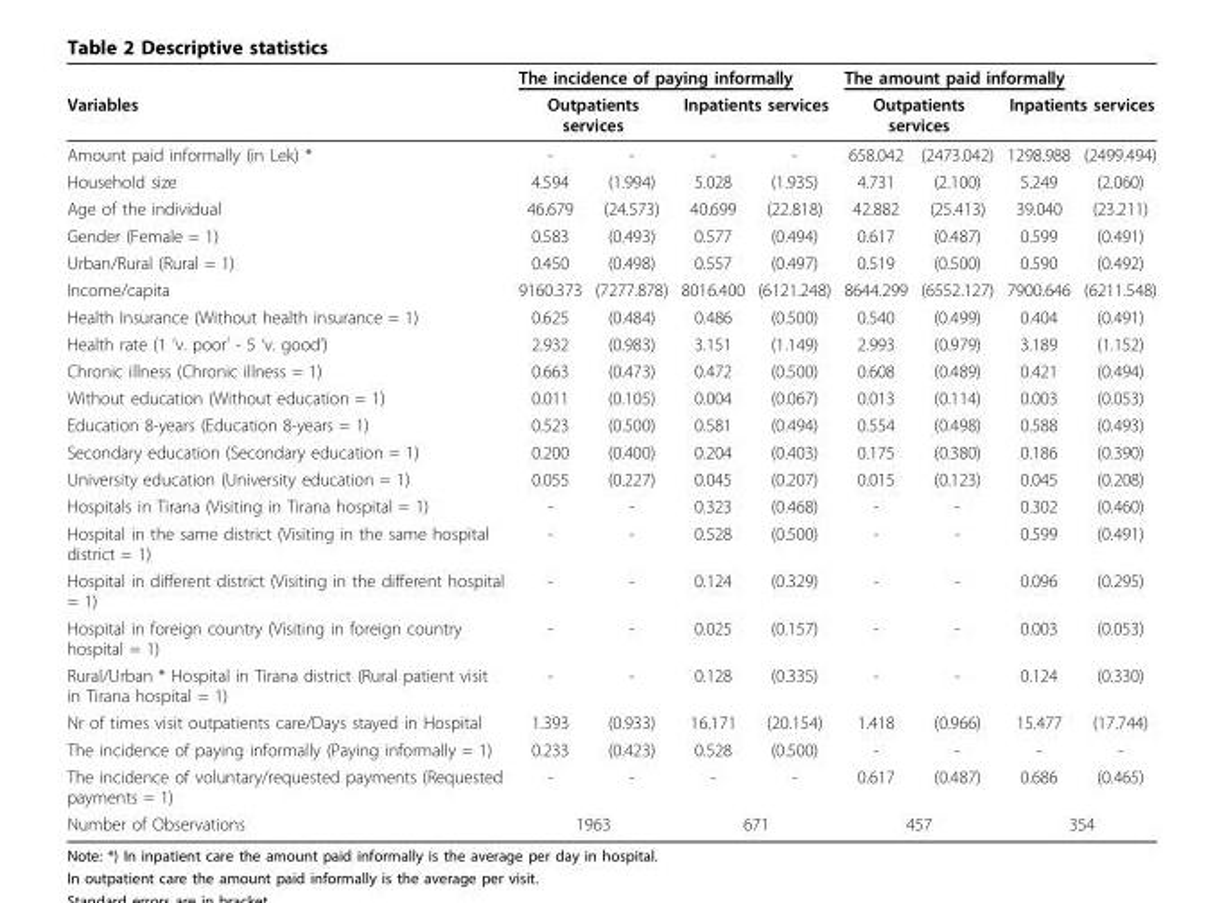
<table><thead><tr><td rowspan="3">Variables Amount paid informally (in Lek) *</td><td colspan="4">The incidence of paying informally</td><td colspan="4">The amount paid informally</td></tr><tr><td colspan="2">Outpatients services</td><td colspan="2">Inpatients services</td><td colspan="2">Outpatients services</td><td colspan="2">Inpatients services</td></tr><tr><td>-</td><td>-</td><td>-</td><td>-</td><td>658.042</td><td>(2473.042)</td><td>1298.988</td><td>(2499.494)</td></tr></thead><tbody><tr><td>Household size</td><td>4.594</td><td>(1.994)</td><td>5.028</td><td>(1.935)</td><td>4.731</td><td>(2.100)</td><td>5.249</td><td>(2.060)</td></tr><tr><td>Age of the individual</td><td>46.679</td><td>(24.573)</td><td>40.699</td><td>(22.818)</td><td>42.882</td><td>(25.413)</td><td>39.040</td><td>(23.211)</td></tr><tr><td>Gender (Female = 1)</td><td>0.583</td><td>(0.493)</td><td>0.577</td><td>(0.494)</td><td>0.617</td><td>(0.487)</td><td>0.599</td><td>(0.491)</td></tr><tr><td>Urban/Rural (Rural = 1)</td><td>0.450</td><td>(0.498)</td><td>0.557</td><td>(0.497)</td><td>0.519</td><td>(0.500)</td><td>0.590</td><td>(0.492)</td></tr><tr><td>Income/capita</td><td>9160.373</td><td>(7277.878)</td><td>8016.400</td><td>(6121.248)</td><td>8644.299</td><td>(6552.127)</td><td>7900.646</td><td>(6211.548)</td></tr><tr><td>Health Insurance (Without health insurance = 1)</td><td>0.625</td><td>(0.484)</td><td>0.486</td><td>(0.500)</td><td>0.540</td><td>(0.499)</td><td>0.404</td><td>(0.491)</td></tr><tr><td>Health rate (1 ‘v. poor’ - 5 ‘v. good’)</td><td>2.932</td><td>(0.983)</td><td>3.151</td><td>(1.149)</td><td>2.993</td><td>(0.979)</td><td>3.189</td><td>(1.152)</td></tr><tr><td>Chronic illness (Chronic illness = 1)</td><td>0.663</td><td>(0.473)</td><td>0.472</td><td>(0.500)</td><td>0.608</td><td>(0.489)</td><td>0.421</td><td>(0.494)</td></tr><tr><td>Without education (Without education = 1)</td><td>0.011</td><td>(0.105)</td><td>0.004</td><td>(0.067)</td><td>0.013</td><td>(0.114)</td><td>0.003</td><td>(0.053)</td></tr><tr><td>Education 8-years (Education 8-years = 1)</td><td>0.523</td><td>(0.500)</td><td>0.581</td><td>(0.494)</td><td>0.554</td><td>(0.498)</td><td>0.588</td><td>(0.493)</td></tr><tr><td>Secondary education (Secondary education = 1)</td><td>0.200</td><td>(0.400)</td><td>0.204</td><td>(0.403)</td><td>0.175</td><td>(0.380)</td><td>0.186</td><td>(0.390)</td></tr><tr><td>University education (University education = 1)</td><td>0.055</td><td>(0.227)</td><td>0.045</td><td>(0.207)</td><td>0.015</td><td>(0.123)</td><td>0.045</td><td>(0.208)</td></tr><tr><td>Hospitals in Tirana (Visiting in Tirana hospital = 1)</td><td>-</td><td>-</td><td>0.323</td><td>(0.468)</td><td>-</td><td>-</td><td>0.302</td><td>(0.460)</td></tr><tr><td>Hospital in the same district (Visiting in the same hospital district = 1)</td><td>-</td><td>-</td><td>0.528</td><td>(0.500)</td><td>-</td><td>-</td><td>0.599</td><td>(0.491)</td></tr><tr><td>Hospital in different district (Visiting in the different hospital = 1)</td><td>-</td><td>-</td><td>0.124</td><td>(0.329)</td><td>-</td><td>-</td><td>0.096</td><td>(0.295)</td></tr><tr><td>Hospital in foreign country (Visiting in foreign country hospital = 1)</td><td>-</td><td>-</td><td>0.025</td><td>(0.157)</td><td>-</td><td>-</td><td>0.003</td><td>(0.053)</td></tr><tr><td>Rural/Urban * Hospital in Tirana district (Rural patient visit in Tirana hospital = 1)</td><td>-</td><td>-</td><td>0.128</td><td>(0.335)</td><td>-</td><td>-</td><td>0.124</td><td>(0.330)</td></tr><tr><td>Nr of times visit outpatients care/Days stayed in Hospital</td><td>1.393</td><td>(0.933)</td><td>16.171</td><td>(20.154)</td><td>1.418</td><td>(0.966)</td><td>15.477</td><td>(17.744)</td></tr><tr><td>The incidence of paying informally (Paying informally = 1)</td><td>0.233</td><td>(0.423)</td><td>0.528</td><td>(0.500)</td><td>-</td><td>-</td><td>-</td><td>-</td></tr><tr><td>The incidence of voluntary/requested payments (Requested payments = 1)</td><td>-</td><td>-</td><td>-</td><td>-</td><td>0.617</td><td>(0.487)</td><td>0.686</td><td>(0.465)</td></tr><tr><td>Number of Observations</td><td colspan="2">1963</td><td colspan="2">671</td><td colspan="2">457</td><td colspan="2">354</td></tr></tbody></table>